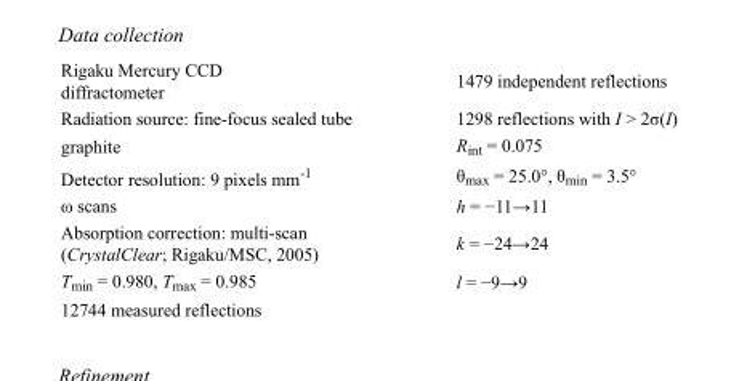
<table><tbody><tr><td>Rigaku Mercury CCD diffractometer</td><td>1479 independent reflections</td></tr><tr><td>Radiation source: fine-focus sealed tube</td><td>1298 reflections with I &gt; 2σ(I)</td></tr><tr><td>graphite</td><td>R<sub>int</sub> = 0.075</td></tr><tr><td>Detector resolution: 9 pixels mm<sup>-1</sup></td><td>θ<sub>max</sub> = 25.0°, θ<sub>min</sub> = 3.5°</td></tr><tr><td>ω scans</td><td>h = −11→11</td></tr><tr><td>Absorption correction: multi-scan (CrystalClear; Rigaku/MSC, 2005)</td><td>k = −24→24</td></tr><tr><td>T<sub>min</sub> = 0.980, T<sub>max</sub> = 0.985</td><td>l = −9→9</td></tr><tr><td>12744 measured reflections</td><td></td></tr></tbody></table>